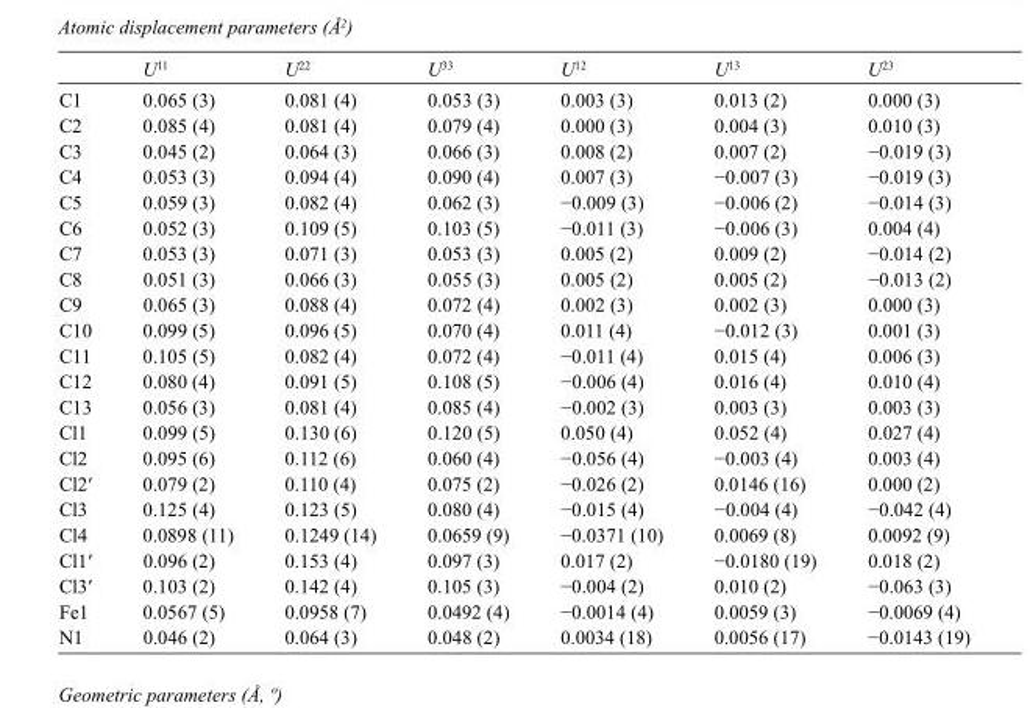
<table><thead><tr><td></td><td>U<sup>11</sup></td><td>U<sup>22</sup></td><td>U<sup>33</sup></td><td>U<sup>12</sup></td><td>U<sup>13</sup></td><td>U<sup>23</sup></td></tr></thead><tbody><tr><td>C1</td><td>0.065 (3)</td><td>0.081 (4)</td><td>0.053 (3)</td><td>0.003 (3)</td><td>0.013 (2)</td><td>0.000 (3)</td></tr><tr><td>C2</td><td>0.085 (4)</td><td>0.081 (4)</td><td>0.079 (4)</td><td>0.000 (3)</td><td>0.004 (3)</td><td>0.010 (3)</td></tr><tr><td>C3</td><td>0.045 (2)</td><td>0.064 (3)</td><td>0.066 (3)</td><td>0.008 (2)</td><td>0.007 (2)</td><td>−0.019 (3)</td></tr><tr><td>C4</td><td>0.053 (3)</td><td>0.094 (4)</td><td>0.090 (4)</td><td>0.007 (3)</td><td>−0.007 (3)</td><td>−0.019 (3)</td></tr><tr><td>C5</td><td>0.059 (3)</td><td>0.082 (4)</td><td>0.062 (3)</td><td>−0.009 (3)</td><td>−0.006 (2)</td><td>−0.014 (3)</td></tr><tr><td>C6</td><td>0.052 (3)</td><td>0.109 (5)</td><td>0.103 (5)</td><td>−0.011 (3)</td><td>−0.006 (3)</td><td>0.004 (4)</td></tr><tr><td>C7</td><td>0.053 (3)</td><td>0.071 (3)</td><td>0.053 (3)</td><td>0.005 (2)</td><td>0.009 (2)</td><td>−0.014 (2)</td></tr><tr><td>C8</td><td>0.051 (3)</td><td>0.066 (3)</td><td>0.055 (3)</td><td>0.005 (2)</td><td>0.005 (2)</td><td>−0.013 (2)</td></tr><tr><td>C9</td><td>0.065 (3)</td><td>0.088 (4)</td><td>0.072 (4)</td><td>0.002 (3)</td><td>0.002 (3)</td><td>0.000 (3)</td></tr><tr><td>C10</td><td>0.099 (5)</td><td>0.096 (5)</td><td>0.070 (4)</td><td>0.011 (4)</td><td>−0.012 (3)</td><td>0.001 (3)</td></tr><tr><td>C11</td><td>0.105 (5)</td><td>0.082 (4)</td><td>0.072 (4)</td><td>−0.011 (4)</td><td>0.015 (4)</td><td>0.006 (3)</td></tr><tr><td>C12</td><td>0.080 (4)</td><td>0.091 (5)</td><td>0.108 (5)</td><td>−0.006 (4)</td><td>0.016 (4)</td><td>0.010 (4)</td></tr><tr><td>C13</td><td>0.056 (3)</td><td>0.081 (4)</td><td>0.085 (4)</td><td>−0.002 (3)</td><td>0.003 (3)</td><td>0.003 (3)</td></tr><tr><td>Cl1</td><td>0.099 (5)</td><td>0.130 (6)</td><td>0.120 (5)</td><td>0.050 (4)</td><td>0.052 (4)</td><td>0.027 (4)</td></tr><tr><td>Cl2</td><td>0.095 (6)</td><td>0.112 (6)</td><td>0.060 (4)</td><td>−0.056 (4)</td><td>−0.003 (4)</td><td>0.003 (4)</td></tr><tr><td>Cl2′</td><td>0.079 (2)</td><td>0.110 (4)</td><td>0.075 (2)</td><td>−0.026 (2)</td><td>0.0146 (16)</td><td>0.000 (2)</td></tr><tr><td>Cl3</td><td>0.125 (4)</td><td>0.123 (5)</td><td>0.080 (4)</td><td>−0.015 (4)</td><td>−0.004 (4)</td><td>−0.042 (4)</td></tr><tr><td>Cl4</td><td>0.0898 (11)</td><td>0.1249 (14)</td><td>0.0659 (9)</td><td>−0.0371 (10)</td><td>0.0069 (8)</td><td>0.0092 (9)</td></tr><tr><td>Cl1′</td><td>0.096 (2)</td><td>0.153 (4)</td><td>0.097 (3)</td><td>0.017 (2)</td><td>−0.0180 (19)</td><td>0.018 (2)</td></tr><tr><td>Cl3′</td><td>0.103 (2)</td><td>0.142 (4)</td><td>0.105 (3)</td><td>−0.004 (2)</td><td>0.010 (2)</td><td>−0.063 (3)</td></tr><tr><td>Fe1</td><td>0.0567 (5)</td><td>0.0958 (7)</td><td>0.0492 (4)</td><td>−0.0014 (4)</td><td>0.0059 (3)</td><td>−0.0069 (4)</td></tr><tr><td>N1</td><td>0.046 (2)</td><td>0.064 (3)</td><td>0.048 (2)</td><td>0.0034 (18)</td><td>0.0056 (17)</td><td>−0.0143 (19)</td></tr></tbody></table>